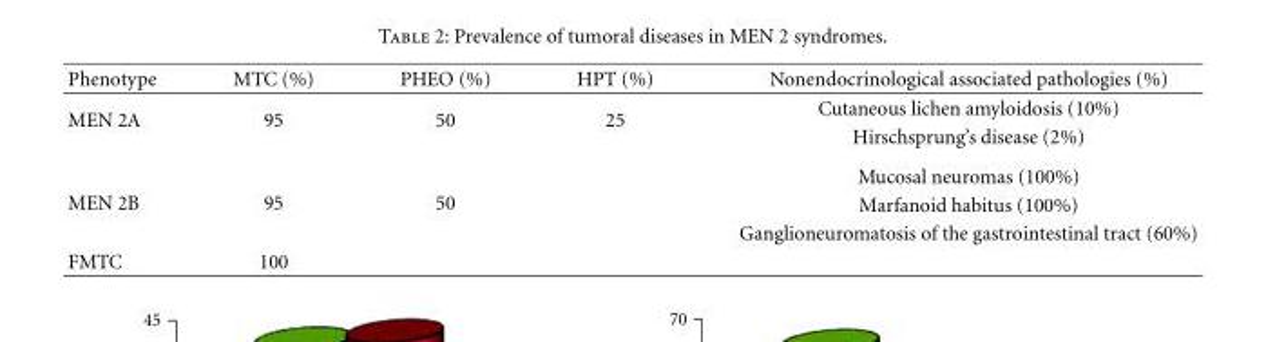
<table><thead><tr><td>Phenotype</td><td>MTC (%)</td><td>PHEO (%)</td><td>HPT (%)</td><td>Nonendocrinological associated pathologies (%)</td></tr></thead><tbody><tr><td rowspan="2">MEN 2A</td><td rowspan="2">95</td><td rowspan="2">50</td><td rowspan="2">25</td><td>Cutaneous lichen amyloidosis (10%)</td></tr><tr><td>Hirschsprung’s disease (2%)</td></tr><tr><td rowspan="3">MEN 2B</td><td rowspan="3">95</td><td rowspan="3">50</td><td rowspan="3"></td><td>Mucosal neuromas (100%)</td></tr><tr><td>Marfanoid habitus (100%)</td></tr><tr><td>Ganglioneuromatosis of the gastrointestinal tract (60%)</td></tr><tr><td>FMTC</td><td>100</td><td></td><td></td><td></td></tr></tbody></table>